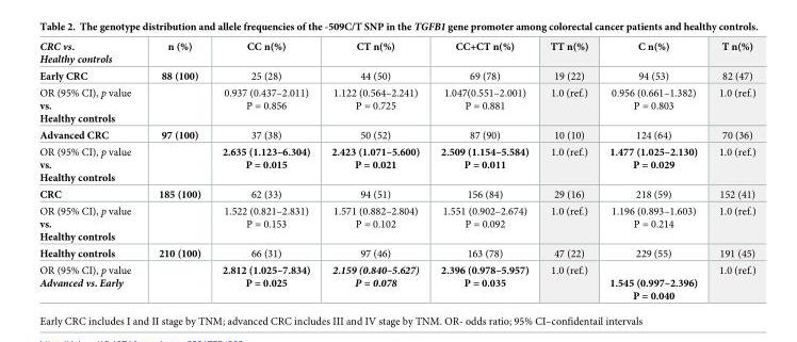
<table><thead><tr><td>CRC vs. Healthy controls</td><td>n (%)</td><td>CC n(%)</td><td>CT n(%)</td><td>CC+CT n(%)</td><td>TT n(%)</td><td>C n(%)</td><td>T n(%)</td></tr></thead><tbody><tr><td>Early CRC</td><td>88 (100)</td><td>25 (28)</td><td>44 (50)</td><td>69 (78)</td><td>19 (22)</td><td>94 (53)</td><td>82 (47)</td></tr><tr><td>OR (95% CI), p value vs. Healthy controls</td><td></td><td>0.937 (0.437–2.011) P = 0.856</td><td>1.122 (0.564–2.241) P = 0.725</td><td>1.047(0.551–2.001) P = 0.881</td><td>1.0 (ref.)</td><td>0.956 (0.661–1.382) P = 0.803</td><td>1.0 (ref.)</td></tr><tr><td>Advanced CRC</td><td>97 (100)</td><td>37 (38)</td><td>50 (52)</td><td>87 (90)</td><td>10 (10)</td><td>124 (64)</td><td>70 (36)</td></tr><tr><td>OR (95% CI), p value vs. Healthy controls</td><td></td><td>2.635 (1.123–6.304) P = 0.015</td><td>2.423 (1.071–5.600) P = 0.021</td><td>2.509 (1.154–5.584) P = 0.011</td><td>1.0 (ref.)</td><td>1.477 (1.025–2.130) P = 0.029</td><td>1.0 (ref.)</td></tr><tr><td>CRC</td><td>185 (100)</td><td>62 (33)</td><td>94 (51)</td><td>156 (84)</td><td>29 (16)</td><td>218 (59)</td><td>152 (41)</td></tr><tr><td>OR (95% CI), p value vs. Healthy controls</td><td></td><td>1.522 (0.821–2.831) P = 0.153</td><td>1.571 (0.882–2.804) P = 0.102</td><td>1.551 (0.902–2.674) P = 0.092</td><td>1.0 (ref.)</td><td>1.196 (0.893–1.603) P = 0.214</td><td>1.0 (ref.)</td></tr><tr><td>Healthy controls</td><td>210 (100)</td><td>66 (31)</td><td>97 (46)</td><td>163 (78)</td><td>47 (22)</td><td>229 (55)</td><td>191 (45)</td></tr><tr><td>OR (95% CI), p value Advanced vs. Early</td><td></td><td>2.812 (1.025–7.834) P = 0.025</td><td>2.159 (0.840–5.627) P = 0.078</td><td>2.396 (0.978–5.957) P = 0.035</td><td>1.0 (ref.)</td><td>1.545 (0.997–2.396) P = 0.040</td><td>1.0 (ref.)</td></tr></tbody></table>